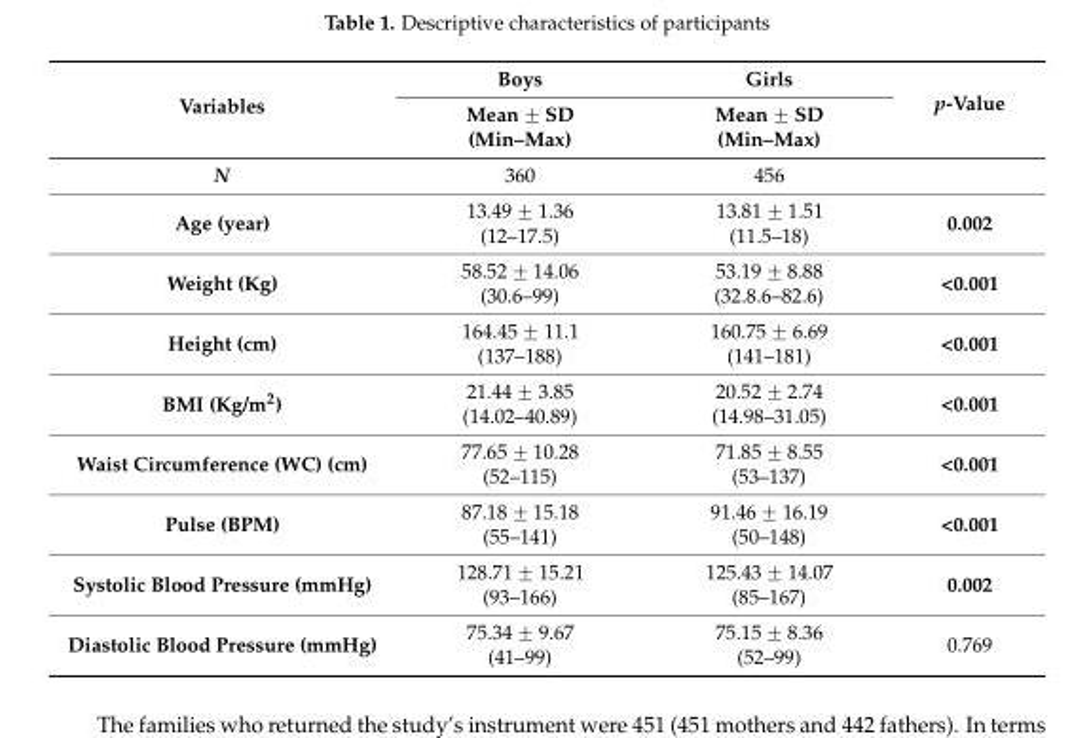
<table><thead><tr><td rowspan="2">Variables</td><td rowspan="2">Boys Mean ˘ SD (Min–Max)</td><td rowspan="2">Girls Mean ˘ SD (Min–Max)</td><td rowspan="2">p-Value</td></tr><tr></tr></thead><tbody><tr><td>N</td><td>360</td><td>456</td><td></td></tr><tr><td>Age (year)</td><td>13.49 ˘ 1.36 (12–17.5)</td><td>13.81 ˘ 1.51 (11.5–18)</td><td>0.002</td></tr><tr><td>Weight (Kg)</td><td>58.52 ˘ 14.06 (30.6–99)</td><td>53.19 ˘ 8.88 (32.8.6–82.6)</td><td>&lt;0.001</td></tr><tr><td>Height (cm)</td><td>164.45 ˘ 11.1 (137–188)</td><td>160.75 ˘ 6.69 (141–181)</td><td>&lt;0.001</td></tr><tr><td>BMI (Kg/m<sup>2</sup>)</td><td>21.44 ˘ 3.85 (14.02–40.89)</td><td>20.52 ˘ 2.74 (14.98–31.05)</td><td>&lt;0.001</td></tr><tr><td>Waist Circumference (WC) (cm)</td><td>77.65 ˘ 10.28 (52–115)</td><td>71.85 ˘ 8.55 (53–137)</td><td>&lt;0.001</td></tr><tr><td>Pulse (BPM)</td><td>87.18 ˘ 15.18 (55–141)</td><td>91.46 ˘ 16.19 (50–148)</td><td>&lt;0.001</td></tr><tr><td>Systolic Blood Pressure (mmHg)</td><td>128.71 ˘ 15.21 (93–166)</td><td>125.43 ˘ 14.07 (85–167)</td><td>0.002</td></tr><tr><td>Diastolic Blood Pressure (mmHg)</td><td>75.34 ˘ 9.67 (41–99)</td><td>75.15 ˘ 8.36 (52–99)</td><td>0.769</td></tr></tbody></table>